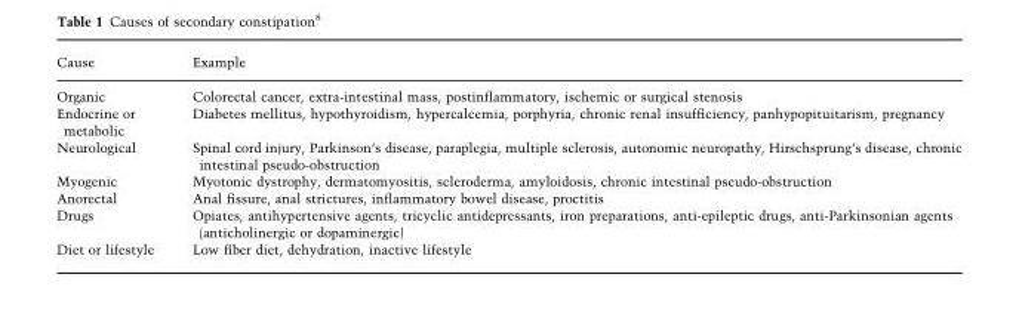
<table><thead><tr><td>Cause</td><td>Example</td></tr></thead><tbody><tr><td>Organic</td><td>Colorectal cancer, extra-intestinal mass, postinflammatory, ischemic or surgical stenosis</td></tr><tr><td>Endocrine or metabolic</td><td>Diabetes mellitus, hypothyroidism, hypercalcemia, porphyria, chronic renal insufficiency, panhypopituitarism, pregnancy</td></tr><tr><td>Neurological</td><td>Spinal cord injury, Parkinson’s disease, paraplegia, multiple sclerosis, autonomic neuropathy, Hirschsprung’s disease, chronic intestinal pseudo-obstruction</td></tr><tr><td>Myogenic</td><td>Myotonic dystrophy, dermatomyositis, scleroderma, amyloidosis, chronic intestinal pseudo-obstruction</td></tr><tr><td>Anorectal</td><td>Anal fissure, anal strictures, inflammatory bowel disease, proctitis</td></tr><tr><td>Drugs</td><td>Opiates, antihypertensive agents, tricyclic antidepressants, iron preparations, anti-epileptic drugs, anti-Parkinsonian agents (anticholinergic or dopaminergic)</td></tr><tr><td>Diet or lifestyle</td><td>Low fiber diet, dehydration, inactive lifestyle</td></tr></tbody></table>